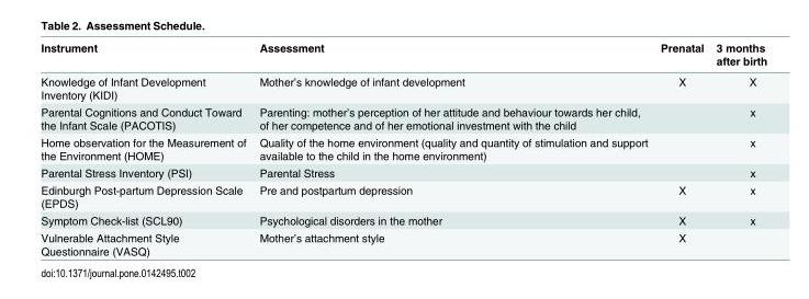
<table><thead><tr><td>Instrument</td><td>Assessment</td><td>Prenatal</td><td>3 months after birth</td></tr></thead><tbody><tr><td>Knowledge of Infant Development Inventory (KIDI)</td><td>Mother’s knowledge of infant development</td><td>X</td><td>X</td></tr><tr><td>Parental Cognitions and Conduct Toward the Infant Scale (PACOTIS)</td><td>Parenting: mother’s perception of her attitude and behaviour towards her child, of her competence and of her emotional investment with the child</td><td></td><td>x</td></tr><tr><td>Home observation for the Measurement of the Environment (HOME)</td><td>Quality of the home environment (quality and quantity of stimulation and support available to the child in the home environment)</td><td></td><td>x</td></tr><tr><td>Parental Stress Inventory (PSI)</td><td>Parental Stress</td><td></td><td>x</td></tr><tr><td>Edinburgh Post-partum Depression Scale (EPDS)</td><td>Pre and postpartum depression</td><td>X</td><td>x</td></tr><tr><td>Symptom Check-list (SCL90)</td><td>Psychological disorders in the mother</td><td>X</td><td>x</td></tr><tr><td>Vulnerable Attachment Style Questionnaire (VASQ)</td><td>Mother’s attachment style</td><td>X</td><td></td></tr></tbody></table>